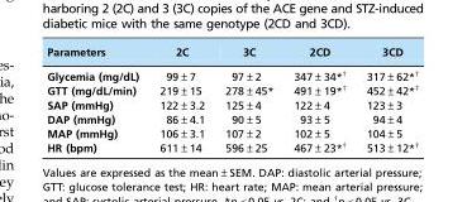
<table><thead><tr><td>Parameters</td><td>2C</td><td>3C</td><td>2CD</td><td>3CD</td></tr></thead><tbody><tr><td>Glycemia (mg/dL)</td><td>99±7</td><td>97±2</td><td>347±34*<sup>†</sup></td><td>317±62*<sup>†</sup></td></tr><tr><td>GTT (mg/dL/min)</td><td>219±15</td><td>278±45*</td><td>491±19*<sup>†</sup></td><td>452±42*<sup>†</sup></td></tr><tr><td>SAP (mmHg)</td><td>122±3.2</td><td>125±4</td><td>122±4</td><td>123±3</td></tr><tr><td>DAP (mmHg)</td><td>86±4.1</td><td>90±5</td><td>93±5</td><td>94±4</td></tr><tr><td>MAP (mmHg)</td><td>106±3.1</td><td>107±2</td><td>102±5</td><td>104±5</td></tr><tr><td>HR (bpm)</td><td>611±14</td><td>596±25</td><td>467±23*<sup>†</sup></td><td>513±12*<sup>†</sup></td></tr></tbody></table>